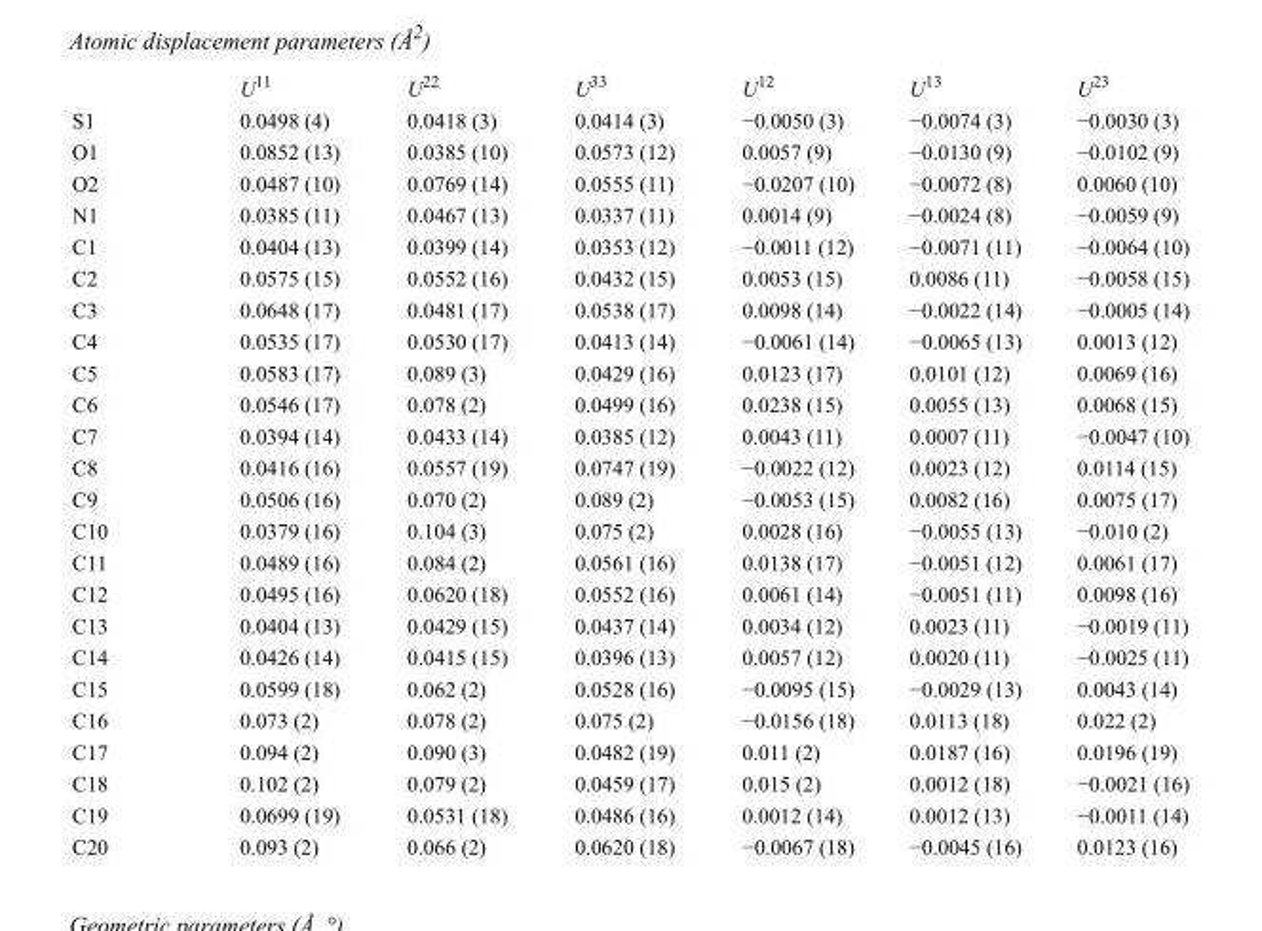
<table><thead><tr><td></td><td>U<sup>11</sup></td><td>U<sup>22</sup></td><td>U<sup>33</sup></td><td>U<sup>12</sup></td><td>U<sup>13</sup></td><td>U<sup>23</sup></td></tr></thead><tbody><tr><td>S1</td><td>0.0498 (4)</td><td>0.0418 (3)</td><td>0.0414 (3)</td><td>−0.0050 (3)</td><td>−0.0074 (3)</td><td>−0.0030 (3)</td></tr><tr><td>O1</td><td>0.0852 (13)</td><td>0.0385 (10)</td><td>0.0573 (12)</td><td>0.0057 (9)</td><td>−0.0130 (9)</td><td>−0.0102 (9)</td></tr><tr><td>O2</td><td>0.0487 (10)</td><td>0.0769 (14)</td><td>0.0555 (11)</td><td>−0.0207 (10)</td><td>−0.0072 (8)</td><td>0.0060 (10)</td></tr><tr><td>N1</td><td>0.0385 (11)</td><td>0.0467 (13)</td><td>0.0337 (11)</td><td>0.0014 (9)</td><td>−0.0024 (8)</td><td>−0.0059 (9)</td></tr><tr><td>C1</td><td>0.0404 (13)</td><td>0.0399 (14)</td><td>0.0353 (12)</td><td>−0.0011 (12)</td><td>−0.0071 (11)</td><td>−0.0064 (10)</td></tr><tr><td>C2</td><td>0.0575 (15)</td><td>0.0552 (16)</td><td>0.0432 (15)</td><td>0.0053 (15)</td><td>0.0086 (11)</td><td>−0.0058 (15)</td></tr><tr><td>C3</td><td>0.0648 (17)</td><td>0.0481 (17)</td><td>0.0538 (17)</td><td>0.0098 (14)</td><td>−0.0022 (14)</td><td>−0.0005 (14)</td></tr><tr><td>C4</td><td>0.0535 (17)</td><td>0.0530 (17)</td><td>0.0413 (14)</td><td>−0.0061 (14)</td><td>−0.0065 (13)</td><td>0.0013 (12)</td></tr><tr><td>C5</td><td>0.0583 (17)</td><td>0.089 (3)</td><td>0.0429 (16)</td><td>0.0123 (17)</td><td>0.0101 (12)</td><td>0.0069 (16)</td></tr><tr><td>C6</td><td>0.0546 (17)</td><td>0.078 (2)</td><td>0.0499 (16)</td><td>0.0238 (15)</td><td>0.0055 (13)</td><td>0.0068 (15)</td></tr><tr><td>C7</td><td>0.0394 (14)</td><td>0.0433 (14)</td><td>0.0385 (12)</td><td>0.0043 (11)</td><td>0.0007 (11)</td><td>−0.0047 (10)</td></tr><tr><td>C8</td><td>0.0416 (16)</td><td>0.0557 (19)</td><td>0.0747 (19)</td><td>−0.0022 (12)</td><td>0.0023 (12)</td><td>0.0114 (15)</td></tr><tr><td>C9</td><td>0.0506 (16)</td><td>0.070 (2)</td><td>0.089 (2)</td><td>−0.0053 (15)</td><td>0.0082 (16)</td><td>0.0075 (17)</td></tr><tr><td>C10</td><td>0.0379 (16)</td><td>0.104 (3)</td><td>0.075 (2)</td><td>0.0028 (16)</td><td>−0.0055 (13)</td><td>−0.010 (2)</td></tr><tr><td>C11</td><td>0.0489 (16)</td><td>0.084 (2)</td><td>0.0561 (16)</td><td>0.0138 (17)</td><td>−0.0051 (12)</td><td>0.0061 (17)</td></tr><tr><td>C12</td><td>0.0495 (16)</td><td>0.0620 (18)</td><td>0.0552 (16)</td><td>0.0061 (14)</td><td>−0.0051 (11)</td><td>0.0098 (16)</td></tr><tr><td>C13</td><td>0.0404 (13)</td><td>0.0429 (15)</td><td>0.0437 (14)</td><td>0.0034 (12)</td><td>0.0023 (11)</td><td>−0.0019 (11)</td></tr><tr><td>C14</td><td>0.0426 (14)</td><td>0.0415 (15)</td><td>0.0396 (13)</td><td>0.0057 (12)</td><td>0.0020 (11)</td><td>−0.0025 (11)</td></tr><tr><td>C15</td><td>0.0599 (18)</td><td>0.062 (2)</td><td>0.0528 (16)</td><td>−0.0095 (15)</td><td>−0.0029 (13)</td><td>0.0043 (14)</td></tr><tr><td>C16</td><td>0.073 (2)</td><td>0.078 (2)</td><td>0.075 (2)</td><td>−0.0156 (18)</td><td>0.0113 (18)</td><td>0.022 (2)</td></tr><tr><td>C17</td><td>0.094 (2)</td><td>0.090 (3)</td><td>0.0482 (19)</td><td>0.011 (2)</td><td>0.0187 (16)</td><td>0.0196 (19)</td></tr><tr><td>C18</td><td>0.102 (2)</td><td>0.079 (2)</td><td>0.0459 (17)</td><td>0.015 (2)</td><td>0.0012 (18)</td><td>−0.0021 (16)</td></tr><tr><td>C19</td><td>0.0699 (19)</td><td>0.0531 (18)</td><td>0.0486 (16)</td><td>0.0012 (14)</td><td>0.0012 (13)</td><td>−0.0011 (14)</td></tr><tr><td>C20</td><td>0.093 (2)</td><td>0.066 (2)</td><td>0.0620 (18)</td><td>−0.0067 (18)</td><td>−0.0045 (16)</td><td>0.0123 (16)</td></tr></tbody></table>